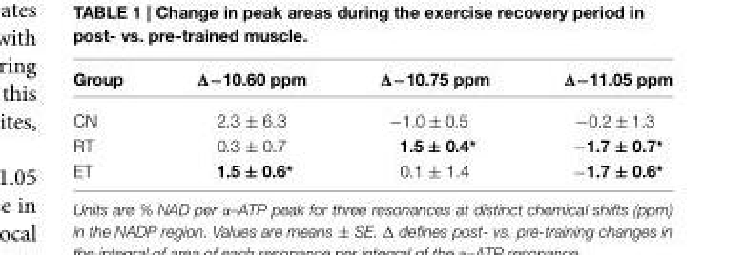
<table><thead><tr><td>Group</td><td>Δ−10.60 ppm</td><td>Δ−10.75 ppm</td><td>Δ−11.05 ppm</td></tr></thead><tbody><tr><td>CN</td><td>2.3 ± 6.3</td><td>−1.0 ± 0.5</td><td>−0.2 ± 1.3</td></tr><tr><td>RT</td><td>0.3 ± 0.7</td><td>1.5 ± 0.4*</td><td>−1.7 ± 0.7*</td></tr><tr><td>ET</td><td>1.5 ± 0.6*</td><td>0.1 ± 1.4</td><td>−1.7 ± 0.6*</td></tr></tbody></table>